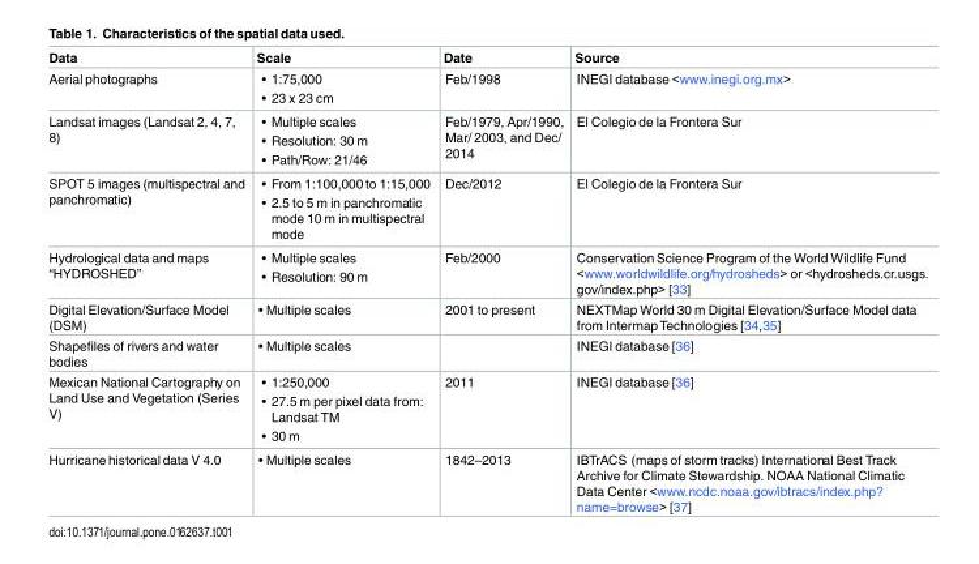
<table><thead><tr><td>Data</td><td>Scale</td><td>Date</td><td>Source</td></tr></thead><tbody><tr><td>Aerial photographs</td><td>• 1:75,000 • 23 x 23 cm</td><td>Feb/1998</td><td>INEGI database &lt;www.inegi.org.mx&gt;</td></tr><tr><td>Landsat images (Landsat 2, 4, 7, 8)</td><td>• Multiple scales • Resolution: 30 m • Path/Row: 21/46</td><td>Feb/1979, Apr/1990, Mar/ 2003, and Dec/ 2014</td><td>El Colegio de la Frontera Sur</td></tr><tr><td>SPOT 5 images (multispectral and panchromatic)</td><td>• From 1:100,000 to 1:15,000 • 2.5 to 5 m in panchromatic mode 10 m in multispectral mode</td><td>Dec/2012</td><td>El Colegio de la Frontera Sur</td></tr><tr><td>Hydrological data and maps “HYDROSHED”</td><td>• Multiple scales • Resolution: 90 m</td><td>Feb/2000</td><td>Conservation Science Program of the World Wildlife Fund &lt;www.worldwildlife.org/hydrosheds&gt; or &lt;hydrosheds.cr.usgs. gov/index.php&gt; [33]</td></tr><tr><td>Digital Elevation/Surface Model (DSM)</td><td>• Multiple scales</td><td>2001 to present</td><td>NEXTMap World 30 m Digital Elevation/Surface Model data from IntermapTechnologies [34,35]</td></tr><tr><td>Shapefiles of rivers and water bodies</td><td>• Multiple scales</td><td></td><td>INEGI database [36]</td></tr><tr><td>Mexican National Cartography on Land Use and Vegetation (Series V)</td><td>• 1:250,000 • 27.5 m per pixel data from: Landsat TM • 30 m</td><td>2011</td><td>INEGI database [36]</td></tr><tr><td>Hurricane historical data V 4.0</td><td>• Multiple scales</td><td>1842–2013</td><td>IBTrACS (maps of storm tracks) International Best Track Archive for Climate Stewardship. NOAA National Climatic Data Center &lt;www.ncdc.noaa.gov/ibtracs/index.php? name=browse&gt; [37]</td></tr></tbody></table>